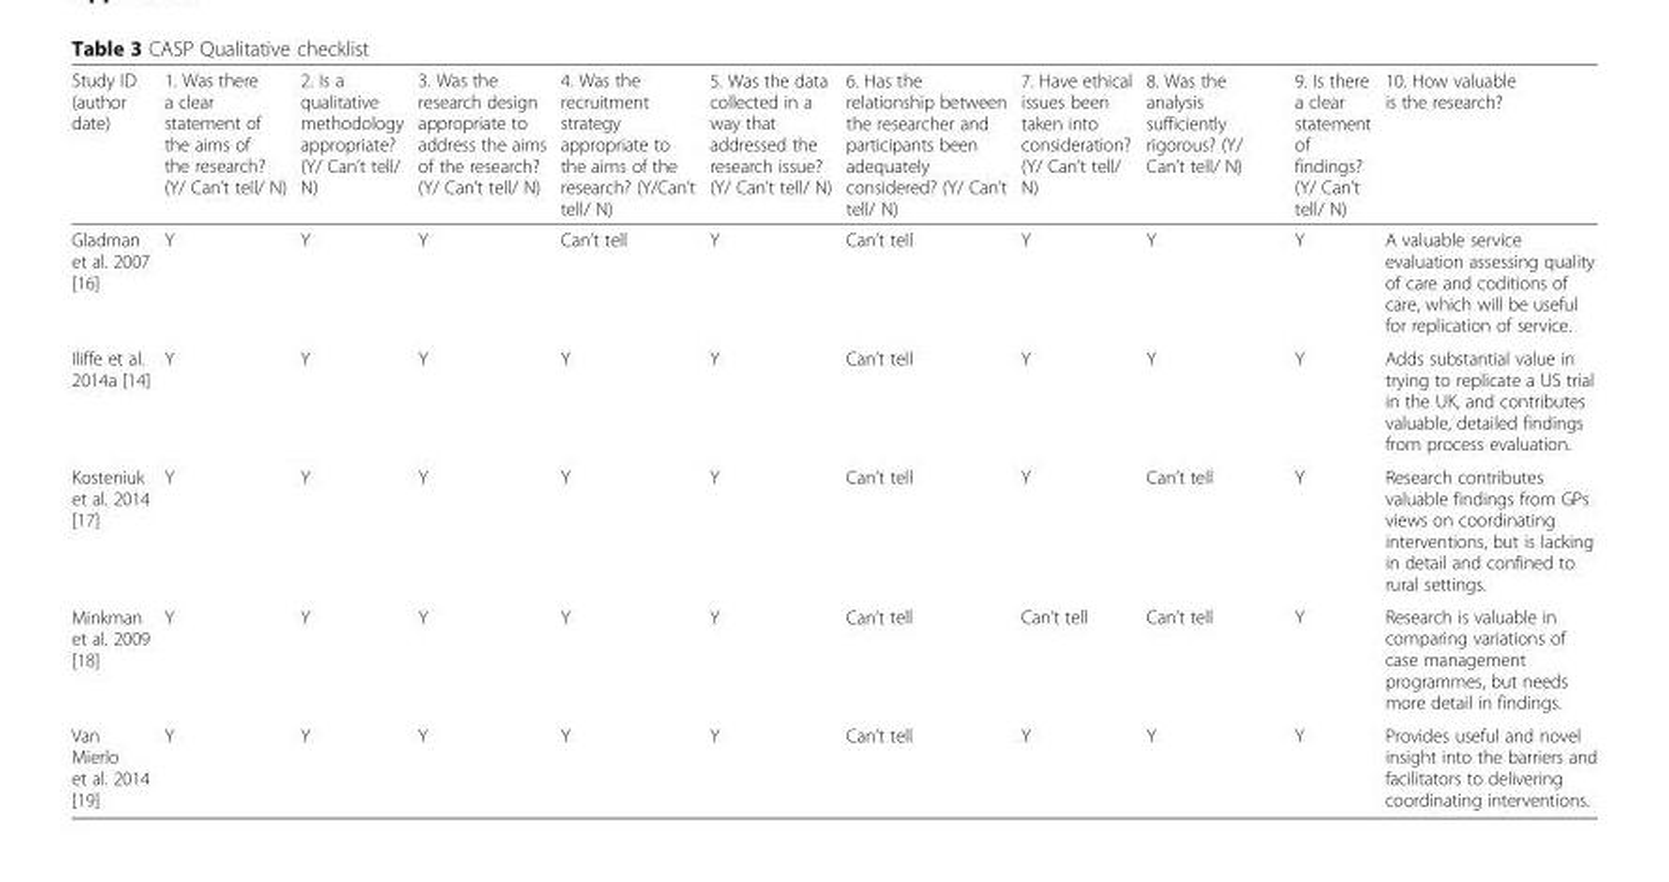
<table><thead><tr><td>Study ID (author date)</td><td>1. Was there a clear statement of the aims of the research? (Y/ Can’t tell/ N)</td><td>2. Is a qualitative methodology appropriate? (Y/ Can’t tell/ N)</td><td>3. Was the research design appropriate to address the aims of the research? (Y/ Can’t tell/ N)</td><td>4. Was the recruitment strategy appropriate to the aims of the research? (Y/Can’t tell/ N)</td><td>5. Was the data collected in a way that addressed the research issue? (Y/ Can’t tell/ N)</td><td>6. Has the relationship between the researcher and participants been adequately considered? (Y/ Can’t tell/ N)</td><td>7. Have ethical issues been taken into consideration? (Y/ Can’t tell/ N)</td><td>8. Was the analysis sufficiently rigorous? (Y/ Can’t tell/ N)</td><td>9. Is there a clear statement of findings? (Y/ Can’t tell/ N)</td><td>10. How valuable is the research?</td></tr></thead><tbody><tr><td>Gladman et al. 2007 [16]</td><td>Y</td><td>Y</td><td>Y</td><td>Can’t tell</td><td>Y</td><td>Can’t tell</td><td>Y</td><td>Y</td><td>Y</td><td>A valuable service evaluation assessing quality of care and coditions of care, which will be useful for replication of service.</td></tr><tr><td>Iliffe et al. 2014a [14]</td><td>Y</td><td>Y</td><td>Y</td><td>Y</td><td>Y</td><td>Can’t tell</td><td>Y</td><td>Y</td><td>Y</td><td>Adds substantial value in trying to replicate a US trial in the UK, and contributes valuable, detailed findings from process evaluation.</td></tr><tr><td>Kosteniuk et al. 2014 [17]</td><td>Y</td><td>Y</td><td>Y</td><td>Y</td><td>Y</td><td>Can’t tell</td><td>Y</td><td>Can’t tell</td><td>Y</td><td>Research contributes valuable findings from GPs views on coordinating interventions, but is lacking in detail and confined to rural settings.</td></tr><tr><td>Minkman et al. 2009 [18]</td><td>Y</td><td>Y</td><td>Y</td><td>Y</td><td>Y</td><td>Can’t tell</td><td>Can’t tell</td><td>Can’t tell</td><td>Y</td><td>Research is valuable in comparing variations of case management programmes, but needs more detail in findings.</td></tr><tr><td>Van Mierlo et al. 2014 [19]</td><td>Y</td><td>Y</td><td>Y</td><td>Y</td><td>Y</td><td>Can’t tell</td><td>Y</td><td>Y</td><td>Y</td><td>Provides useful and novel insight into the barriers and facilitators to delivering coordinating interventions.</td></tr></tbody></table>